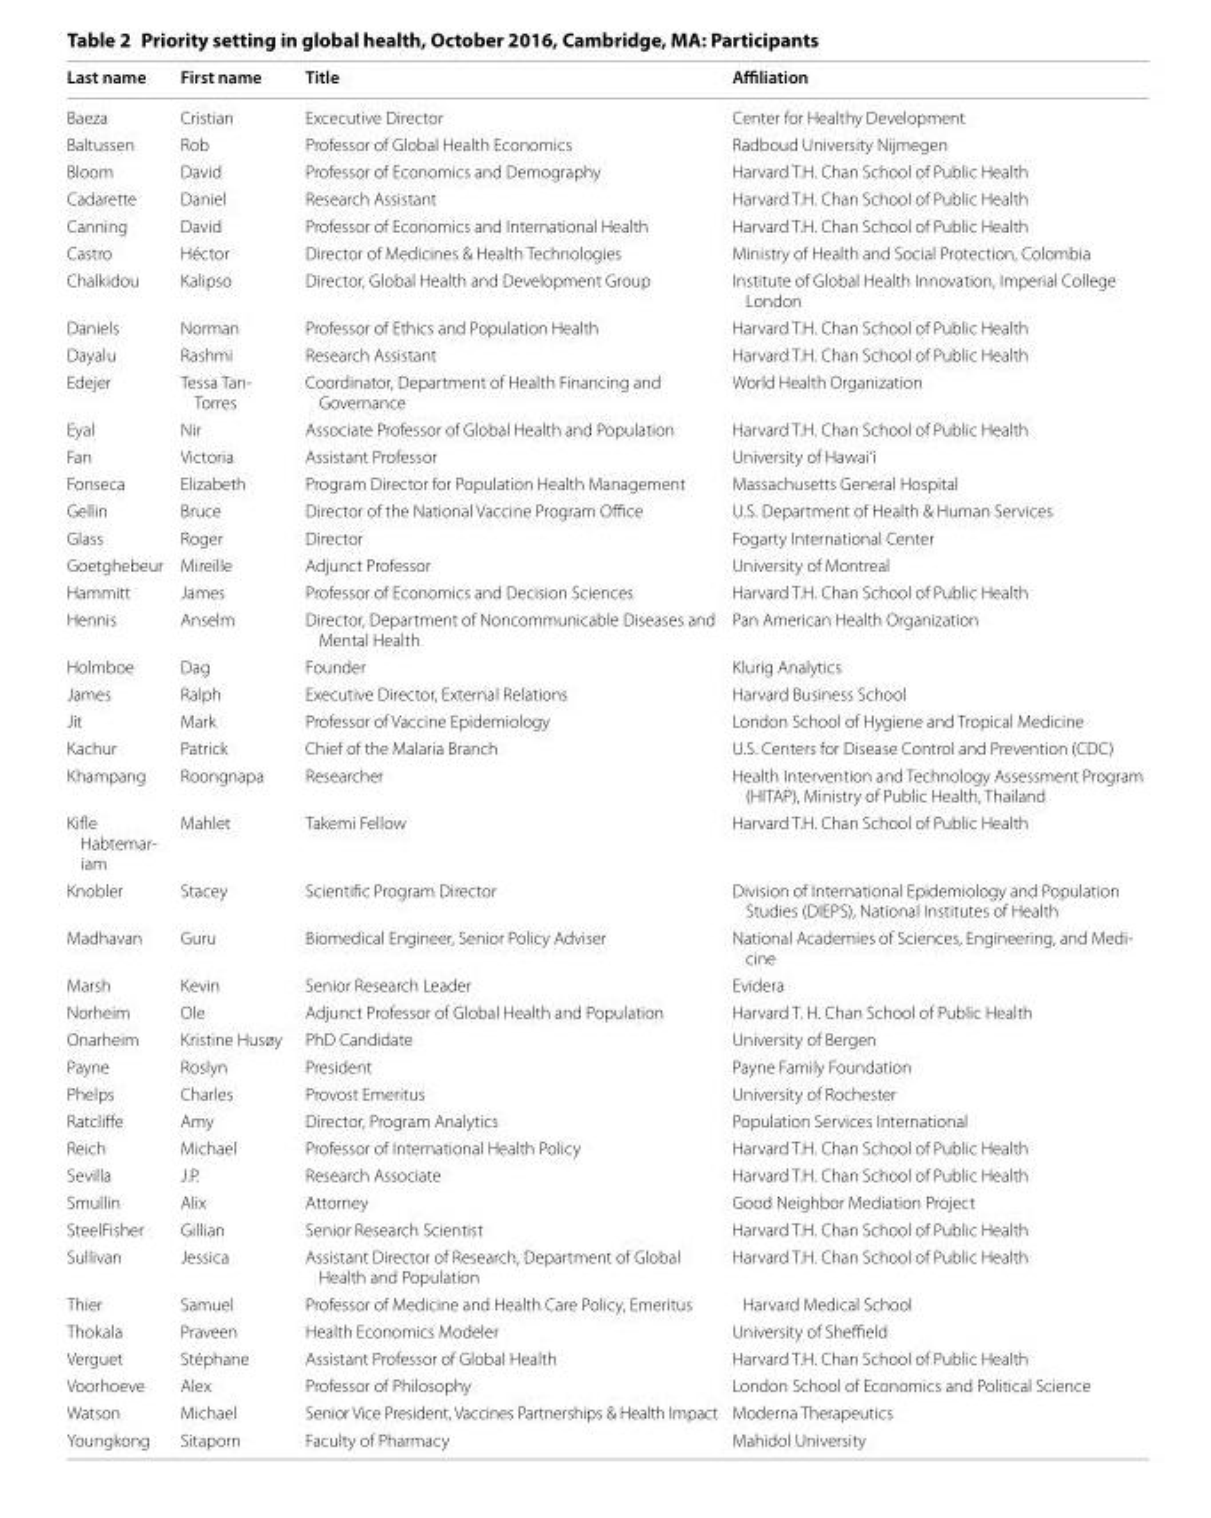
<table><thead><tr><td>Last name</td><td>First name</td><td>Title</td><td>Affiliation</td></tr></thead><tbody><tr><td>Baeza</td><td>Cristian</td><td>Excecutive Director</td><td>Center for Healthy Development</td></tr><tr><td>Baltussen</td><td>Rob</td><td>Professor of Global Health Economics</td><td>Radboud University Nijmegen</td></tr><tr><td>Bloom</td><td>David</td><td>Professor of Economics and Demography</td><td>Harvard T.H. Chan School of Public Health</td></tr><tr><td>Cadarette</td><td>Daniel</td><td>Research Assistant</td><td>Harvard T.H. Chan School of Public Health</td></tr><tr><td>Canning</td><td>David</td><td>Professor of Economics and International Health</td><td>Harvard T.H. Chan School of Public Health</td></tr><tr><td>Castro</td><td>Héctor</td><td>Director of Medicines &amp; Health Technologies</td><td>Ministry of Health and Social Protection, Colombia</td></tr><tr><td>Chalkidou</td><td>Kalipso</td><td>Director, Global Health and Development Group</td><td>Institute of Global Health Innovation, Imperial College London</td></tr><tr><td>Daniels</td><td>Norman</td><td>Professor of Ethics and Population Health</td><td>Harvard T.H. Chan School of Public Health</td></tr><tr><td>Dayalu</td><td>Rashmi</td><td>Research Assistant</td><td>Harvard T.H. Chan School of Public Health</td></tr><tr><td>Edejer</td><td>Tessa Tan- Torres</td><td>Coordinator, Department of Health Financing and Governance</td><td>World Health Organization</td></tr><tr><td>Eyal</td><td>Nir</td><td>Associate Professor of Global Health and Population</td><td>Harvard T.H. Chan School of Public Health</td></tr><tr><td>Fan</td><td>Victoria</td><td>Assistant Professor</td><td>University of Hawai‘i</td></tr><tr><td>Fonseca</td><td>Elizabeth</td><td>Program Director for Population Health Management</td><td>Massachusetts General Hospital</td></tr><tr><td>Gellin</td><td>Bruce</td><td>Director of the National Vaccine Program Office</td><td>U.S. Department of Health &amp; Human Services</td></tr><tr><td>Glass</td><td>Roger</td><td>Director</td><td>Fogarty International Center</td></tr><tr><td>Goetghebeur</td><td>Mireille</td><td>Adjunct Professor</td><td>University of Montreal</td></tr><tr><td>Hammitt</td><td>James</td><td>Professor of Economics and Decision Sciences</td><td>Harvard T.H. Chan School of Public Health</td></tr><tr><td>Hennis</td><td>Anselm</td><td>Director, Department of Noncommunicable Diseases and Mental Health</td><td>Pan American Health Organization</td></tr><tr><td>Holmboe</td><td>Dag</td><td>Founder</td><td>Klurig Analytics</td></tr><tr><td>James</td><td>Ralph</td><td>Executive Director, External Relations</td><td>Harvard Business School</td></tr><tr><td>Jit</td><td>Mark</td><td>Professor of Vaccine Epidemiology</td><td>London School of Hygiene and Tropical Medicine</td></tr><tr><td>Kachur</td><td>Patrick</td><td>Chief of the Malaria Branch</td><td>U.S. Centers for Disease Control and Prevention (CDC)</td></tr><tr><td>Khampang</td><td>Roongnapa</td><td>Researcher</td><td>Health Intervention and Technology Assessment Program (HITAP), Ministry of Public Health, Thailand</td></tr><tr><td>Kifle Habtemar- iam</td><td>Mahlet</td><td>Takemi Fellow</td><td>Harvard T.H. Chan School of Public Health</td></tr><tr><td>Knobler</td><td>Stacey</td><td>Scientific Program Director</td><td>Division of International Epidemiology and Population Studies (DIEPS), National Institutes of Health</td></tr><tr><td>Madhavan</td><td>Guru</td><td>Biomedical Engineer, Senior Policy Adviser</td><td>National Academies of Sciences, Engineering, and Medi- cine</td></tr><tr><td>Marsh</td><td>Kevin</td><td>Senior Research Leader</td><td>Evidera</td></tr><tr><td>Norheim</td><td>Ole</td><td>Adjunct Professor of Global Health and Population</td><td>Harvard T. H. Chan School of Public Health</td></tr><tr><td>Onarheim</td><td>Kristine Husøy</td><td>PhD Candidate</td><td>University of Bergen</td></tr><tr><td>Payne</td><td>Roslyn</td><td>President</td><td>Payne Family Foundation</td></tr><tr><td>Phelps</td><td>Charles</td><td>Provost Emeritus</td><td>University of Rochester</td></tr><tr><td>Ratcliffe</td><td>Amy</td><td>Director, Program Analytics</td><td>Population Services International</td></tr><tr><td>Reich</td><td>Michael</td><td>Professor of International Health Policy</td><td>Harvard T.H. Chan School of Public Health</td></tr><tr><td>Sevilla</td><td>J.P.</td><td>Research Associate</td><td>Harvard T.H. Chan School of Public Health</td></tr><tr><td>Smullin</td><td>Alix</td><td>Attorney</td><td>Good Neighbor Mediation Project</td></tr><tr><td>SteelFisher</td><td>Gillian</td><td>Senior Research Scientist</td><td>Harvard T.H. Chan School of Public Health</td></tr><tr><td>Sullivan</td><td>Jessica</td><td>Assistant Director of Research, Department of Global Health and Population</td><td>Harvard T.H. Chan School of Public Health</td></tr><tr><td>Thier</td><td>Samuel</td><td>Professor of Medicine and Health Care Policy, Emeritus</td><td>Harvard Medical School</td></tr><tr><td>Thokala</td><td>Praveen</td><td>Health Economics Modeler</td><td>University of Sheffield</td></tr><tr><td>Verguet</td><td>Stéphane</td><td>Assistant Professor of Global Health</td><td>Harvard T.H. Chan School of Public Health</td></tr><tr><td>Voorhoeve</td><td>Alex</td><td>Professor of Philosophy</td><td>London School of Economics and Political Science</td></tr><tr><td>Watson</td><td>Michael</td><td>Senior Vice President, Vaccines Partnerships &amp; Health Impact</td><td>Moderna Therapeutics</td></tr><tr><td>Youngkong</td><td>Sitaporn</td><td>Faculty of Pharmacy</td><td>Mahidol University</td></tr></tbody></table>